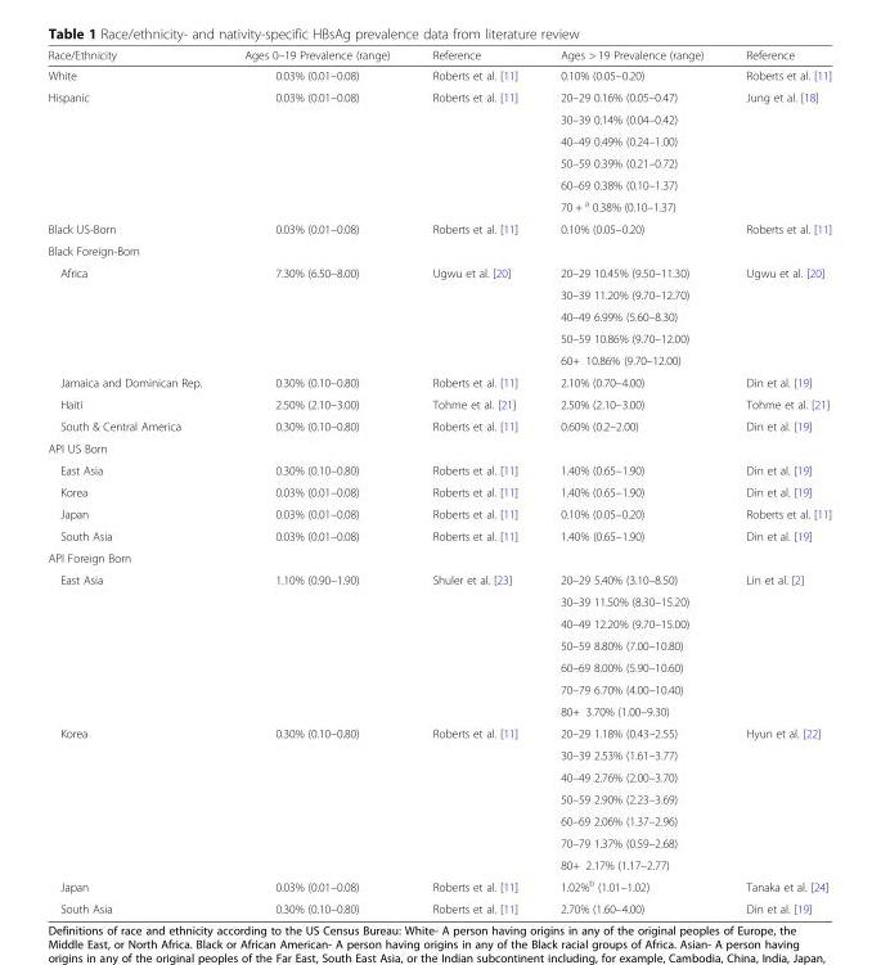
<table><thead><tr><td>Race/Ethnicity</td><td>Ages 0–19 Prevalence (range)</td><td>Reference</td><td>Ages &gt; 19 Prevalence (range)</td><td>Reference</td></tr></thead><tbody><tr><td>White</td><td>0.03% (0.01–0.08)</td><td>Roberts et al. [11]</td><td>0.10% (0.05–0.20)</td><td>Roberts et al. [11]</td></tr><tr><td rowspan="6">Hispanic</td><td>0.03% (0.01–0.08)</td><td>Roberts et al. [11]</td><td>20–29 0.16% (0.05–0.47)</td><td>Jung et al. [18]</td></tr><tr><td></td><td></td><td>30–39 0.14% (0.04–0.42)</td><td></td></tr><tr><td></td><td></td><td>40–49 0.49% (0.24–1.00)</td><td></td></tr><tr><td></td><td></td><td>50–59 0.39% (0.21–0.72)</td><td></td></tr><tr><td></td><td></td><td>60–69 0.38% (0.10–1.37)</td><td></td></tr><tr><td></td><td></td><td>70 + <sup>a</sup> 0.38% (0.10–1.37)</td><td></td></tr><tr><td>Black US-Born</td><td>0.03% (0.01–0.08)</td><td>Roberts et al. [11]</td><td>0.10% (0.05–0.20)</td><td>Roberts et al. [11]</td></tr><tr><td colspan="5">Black Foreign-Born</td></tr><tr><td rowspan="5">Africa</td><td>7.30% (6.50–8.00)</td><td>Ugwu et al. [20]</td><td>20–29 10.45% (9.50–11.30)</td><td>Ugwu et al. [20]</td></tr><tr><td></td><td></td><td>30–39 11.20% (9.70–12.70)</td><td></td></tr><tr><td></td><td></td><td>40–49 6.99% (5.60–8.30)</td><td></td></tr><tr><td></td><td></td><td>50–59 10.86% (9.70–12.00)</td><td></td></tr><tr><td></td><td></td><td>60+ 10.86% (9.70–12.00)</td><td></td></tr><tr><td>Jamaica and Dominican Rep.</td><td>0.30% (0.10–0.80)</td><td>Roberts et al. [11]</td><td>2.10% (0.70–4.00)</td><td>Din et al. [19]</td></tr><tr><td>Haiti</td><td>2.50% (2.10–3.00)</td><td>Tohme et al. [21]</td><td>2.50% (2.10–3.00)</td><td>Tohme et al. [21]</td></tr><tr><td>South &amp; Central America</td><td>0.30% (0.10–0.80)</td><td>Roberts et al. [11]</td><td>0.60% (0.2–2.00)</td><td>Din et al. [19]</td></tr><tr><td colspan="5">API US Born</td></tr><tr><td>East Asia</td><td>0.30% (0.10–0.80)</td><td>Roberts et al. [11]</td><td>1.40% (0.65–1.90)</td><td>Din et al. [19]</td></tr><tr><td>Korea</td><td>0.03% (0.01–0.08)</td><td>Roberts et al. [11]</td><td>1.40% (0.65–1.90)</td><td>Din et al. [19]</td></tr><tr><td>Japan</td><td>0.03% (0.01–0.08)</td><td>Roberts et al. [11]</td><td>0.10% (0.05–0.20)</td><td>Roberts et al. [11]</td></tr><tr><td>South Asia</td><td>0.03% (0.01–0.08)</td><td>Roberts et al. [11]</td><td>1.40% (0.65–1.90)</td><td>Din et al. [19]</td></tr><tr><td colspan="5">API Foreign Born</td></tr><tr><td rowspan="7">East Asia</td><td>1.10% (0.90–1.90)</td><td>Shuler et al. [23]</td><td>20–29 5.40% (3.10–8.50)</td><td>Lin et al. [2]</td></tr><tr><td></td><td></td><td>30–39 11.50% (8.30–15.20)</td><td></td></tr><tr><td></td><td></td><td>40–49 12.20% (9.70–15.00)</td><td></td></tr><tr><td></td><td></td><td>50–59 8.80% (7.00–10.80)</td><td></td></tr><tr><td></td><td></td><td>60–69 8.00% (5.90–10.60)</td><td></td></tr><tr><td></td><td></td><td>70–79 6.70% (4.00–10.40)</td><td></td></tr><tr><td></td><td></td><td>80+ 3.70% (1.00–9.30)</td><td></td></tr><tr><td rowspan="7">Korea</td><td>0.30% (0.10–0.80)</td><td>Roberts et al. [11]</td><td>20–29 1.18% (0.43–2.55)</td><td>Hyun et al. [22]</td></tr><tr><td></td><td></td><td>30–39 2.53% (1.61–3.77)</td><td></td></tr><tr><td></td><td></td><td>40–49 2.76% (2.00–3.70)</td><td></td></tr><tr><td></td><td></td><td>50–59 2.90% (2.23–3.69)</td><td></td></tr><tr><td></td><td></td><td>60–69 2.06% (1.37–2.96)</td><td></td></tr><tr><td></td><td></td><td>70–79 1.37% (0.59–2.68)</td><td></td></tr><tr><td></td><td></td><td>80+ 2.17% (1.17–2.77)</td><td></td></tr><tr><td>Japan</td><td>0.03% (0.01–0.08)</td><td>Roberts et al. [11]</td><td>1.02%<sup>b</sup> (1.01–1.02)</td><td>Tanaka et al. [24]</td></tr><tr><td>South Asia</td><td>0.30% (0.10–0.80)</td><td>Roberts et al. [11]</td><td>2.70% (1.60–4.00)</td><td>Din et al. [19]</td></tr></tbody></table>